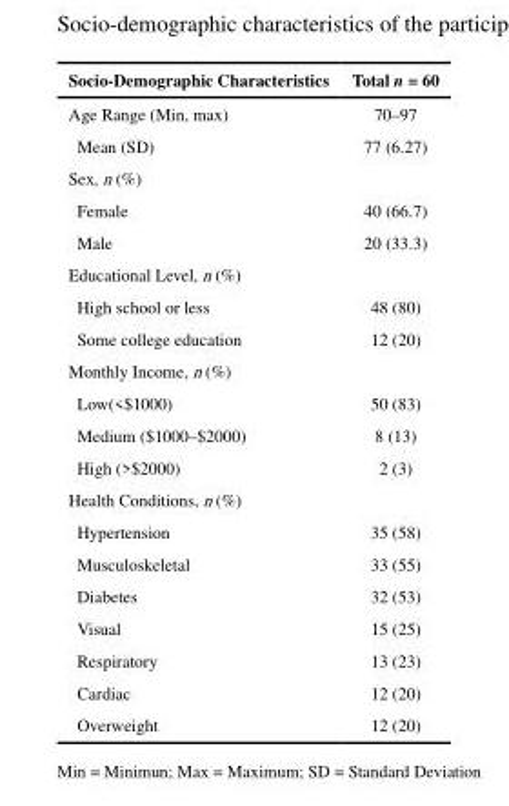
<table><thead><tr><td>Socio-Demographic Characteristics</td><td>Total n = 60</td></tr></thead><tbody><tr><td>Age Range (Min, max)</td><td>70–97</td></tr><tr><td>Mean (SD)</td><td>77 (6.27)</td></tr><tr><td colspan="2">Sex, n (%)</td></tr><tr><td>Female</td><td>40 (66.7)</td></tr><tr><td>Male</td><td>20 (33.3)</td></tr><tr><td colspan="2">Educational Level, n (%)</td></tr><tr><td>High school or less</td><td>48 (80)</td></tr><tr><td>Some college education</td><td>12 (20)</td></tr><tr><td colspan="2">Monthly Income, n (%)</td></tr><tr><td>Low(&lt;$1000)</td><td>50 (83)</td></tr><tr><td>Medium ($1000–$2000)</td><td>8 (13)</td></tr><tr><td>High (&gt;$2000)</td><td>2 (3)</td></tr><tr><td colspan="2">Health Conditions, n (%)</td></tr><tr><td>Hypertension</td><td>35 (58)</td></tr><tr><td>Musculoskeletal</td><td>33 (55)</td></tr><tr><td>Diabetes</td><td>32 (53)</td></tr><tr><td>Visual</td><td>15 (25)</td></tr><tr><td>Respiratory</td><td>13 (23)</td></tr><tr><td>Cardiac</td><td>12 (20)</td></tr><tr><td>Overweight</td><td>12 (20)</td></tr></tbody></table>